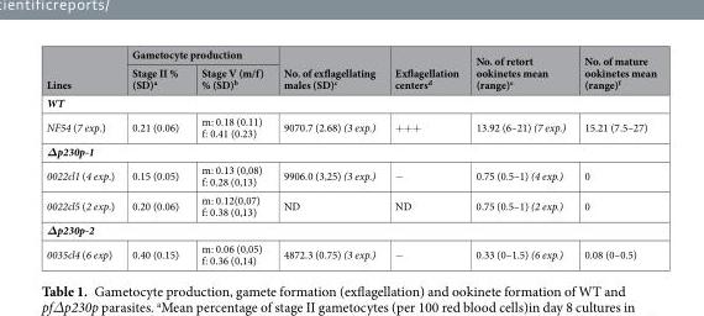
<table><thead><tr><td rowspan="2">Lines</td><td colspan="2">Gametocyte production</td><td rowspan="2">No. of exflagellating males (SD)<sup>c</sup></td><td rowspan="2">Exflagellation centers<sup>d</sup></td><td rowspan="2">No. of retort ookinetes mean (range)<sup>e</sup></td><td rowspan="2">No. of mature ookinetes mean (range)<sup>f</sup></td></tr><tr><td>Stage II % (SD)<sup>a</sup></td><td>Stage V (m/f) % (SD)<sup>b</sup></td></tr></thead><tbody><tr><td colspan="7">WT</td></tr><tr><td>NF54 (7 exp.)</td><td>0.21 (0.06)</td><td>m: 0.18 (0.11) f: 0.41 (0.23)</td><td>9070.7 (2.68) (3 exp.)</td><td>+++</td><td>13.92 (6–21) (7 exp.)</td><td>15.21 (7.5–27)</td></tr><tr><td colspan="7">Δp230p-1</td></tr><tr><td>0022cl1 (4 exp.)</td><td>0.15 (0.05)</td><td>m: 0.13 (0,08) f: 0.28 (0,13)</td><td>9906.0 (3,25) (3 exp.)</td><td>−</td><td>0.75 (0.5–1) (4 exp.)</td><td>0</td></tr><tr><td>0022cl5 (2 exp.)</td><td>0.20 (0.06)</td><td>m: 0.12(0,07) f: 0.38 (0,13)</td><td>ND</td><td>ND</td><td>0.75 (0.5–1) (2 exp.)</td><td>0</td></tr><tr><td colspan="7">Δp230p-2</td></tr><tr><td>0035cl4 (6 exp)</td><td>0.40 (0.15)</td><td>m: 0.06 (0,05) f: 0.36 (0,14)</td><td>4872.3 (0.75) (3 exp.)</td><td>−</td><td>0.33 (0–1.5) (6 exp.)</td><td>0.08 (0–0.5)</td></tr></tbody></table>